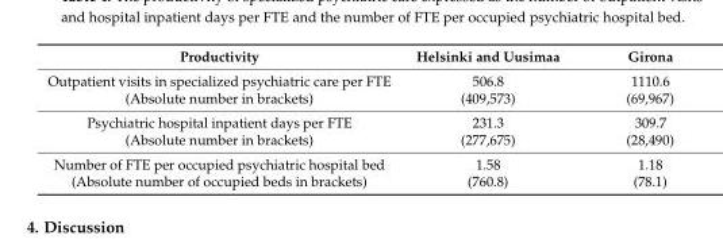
<table><thead><tr><td>Productivity</td><td>Helsinki and Uusimaa</td><td>Girona</td></tr></thead><tbody><tr><td>Outpatient visits in specialized psychiatric care per FTE (Absolute number in brackets)</td><td>506.8 (409,573)</td><td>1110.6 (69,967)</td></tr><tr><td>Psychiatric hospital inpatient days per FTE (Absolute number in brackets)</td><td>231.3 (277,675)</td><td>309.7 (28,490)</td></tr><tr><td>Number of FTE per occupied psychiatric hospital bed (Absolute number of occupied beds in brackets)</td><td>1.58 (760.8)</td><td>1.18 (78.1)</td></tr></tbody></table>